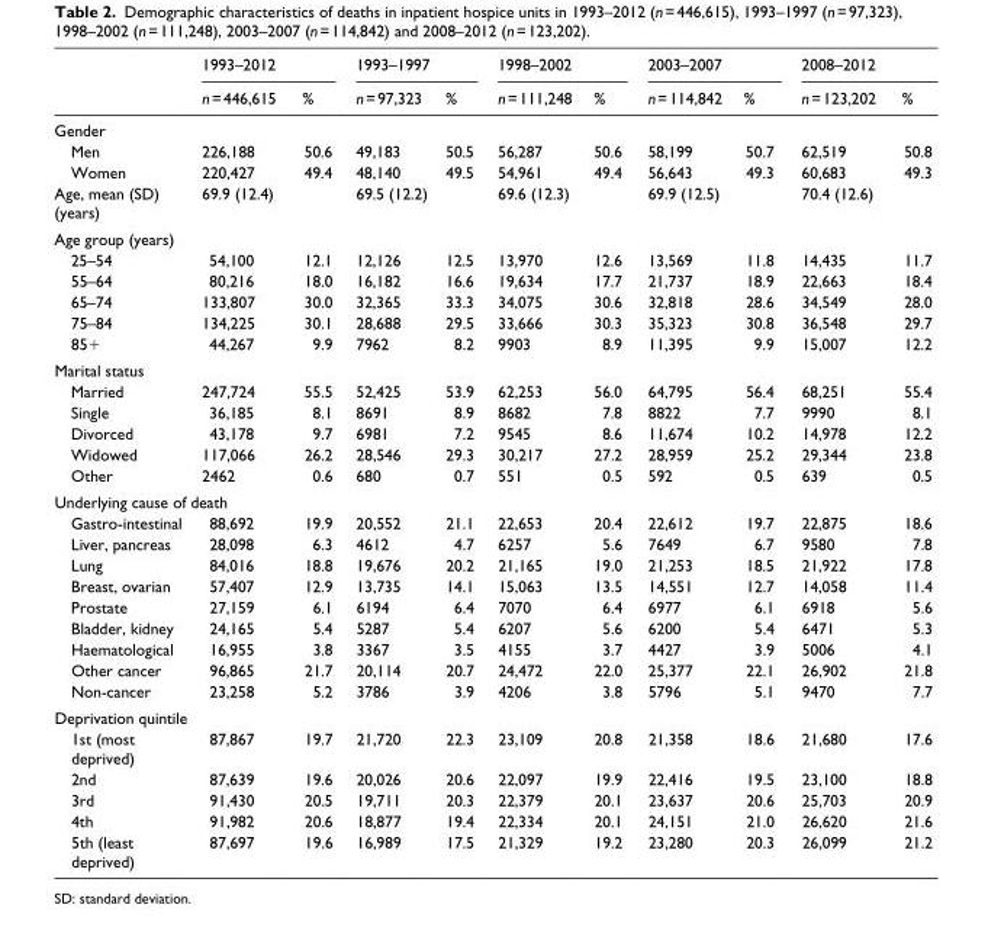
<table><thead><tr><td rowspan="2"></td><td colspan="2">1993–2012</td><td colspan="2">1993–1997</td><td colspan="2">1998–2002</td><td colspan="2">2003–2007</td><td colspan="2">2008–2012</td></tr><tr><td>n = 446,615</td><td>%</td><td>n = 97,323</td><td>%</td><td>n = 111,248</td><td>%</td><td>n = 114,842</td><td>%</td><td>n = 123,202</td><td>%</td></tr></thead><tbody><tr><td colspan="11">Gender</td></tr><tr><td>Men</td><td>226,188</td><td>50.6</td><td>49,183</td><td>50.5</td><td>56,287</td><td>50.6</td><td>58,199</td><td>50.7</td><td>62,519</td><td>50.8</td></tr><tr><td>Women</td><td>220,427</td><td>49.4</td><td>48,140</td><td>49.5</td><td>54,961</td><td>49.4</td><td>56,643</td><td>49.3</td><td>60,683</td><td>49.3</td></tr><tr><td>Age, mean (SD) (years)</td><td colspan="2">69.9 (12.4)</td><td colspan="2">69.5 (12.2)</td><td colspan="2">69.6 (12.3)</td><td colspan="2">69.9 (12.5)</td><td colspan="2">70.4 (12.6)</td></tr><tr><td colspan="11">Age group (years)</td></tr><tr><td>25–54</td><td>54,100</td><td>12.1</td><td>12,126</td><td>12.5</td><td>13,970</td><td>12.6</td><td>13,569</td><td>11.8</td><td>14,435</td><td>11.7</td></tr><tr><td>55–64</td><td>80,216</td><td>18.0</td><td>16,182</td><td>16.6</td><td>19,634</td><td>17.7</td><td>21,737</td><td>18.9</td><td>22,663</td><td>18.4</td></tr><tr><td>65–74</td><td>133,807</td><td>30.0</td><td>32,365</td><td>33.3</td><td>34,075</td><td>30.6</td><td>32,818</td><td>28.6</td><td>34,549</td><td>28.0</td></tr><tr><td>75–84</td><td>134,225</td><td>30.1</td><td>28,688</td><td>29.5</td><td>33,666</td><td>30.3</td><td>35,323</td><td>30.8</td><td>36,548</td><td>29.7</td></tr><tr><td>85+</td><td>44,267</td><td>9.9</td><td>7962</td><td>8.2</td><td>9903</td><td>8.9</td><td>11,395</td><td>9.9</td><td>15,007</td><td>12.2</td></tr><tr><td colspan="11">Marital status</td></tr><tr><td>Married</td><td>247,724</td><td>55.5</td><td>52,425</td><td>53.9</td><td>62,253</td><td>56.0</td><td>64,795</td><td>56.4</td><td>68,251</td><td>55.4</td></tr><tr><td>Single</td><td>36,185</td><td>8.1</td><td>8691</td><td>8.9</td><td>8682</td><td>7.8</td><td>8822</td><td>7.7</td><td>9990</td><td>8.1</td></tr><tr><td>Divorced</td><td>43,178</td><td>9.7</td><td>6981</td><td>7.2</td><td>9545</td><td>8.6</td><td>11,674</td><td>10.2</td><td>14,978</td><td>12.2</td></tr><tr><td>Widowed</td><td>117,066</td><td>26.2</td><td>28,546</td><td>29.3</td><td>30,217</td><td>27.2</td><td>28,959</td><td>25.2</td><td>29,344</td><td>23.8</td></tr><tr><td>Other</td><td>2462</td><td>0.6</td><td>680</td><td>0.7</td><td>551</td><td>0.5</td><td>592</td><td>0.5</td><td>639</td><td>0.5</td></tr><tr><td colspan="11">Underlying cause of death</td></tr><tr><td>Gastro-intestinal</td><td>88,692</td><td>19.9</td><td>20,552</td><td>21.1</td><td>22,653</td><td>20.4</td><td>22,612</td><td>19.7</td><td>22,875</td><td>18.6</td></tr><tr><td>Liver, pancreas</td><td>28,098</td><td>6.3</td><td>4612</td><td>4.7</td><td>6257</td><td>5.6</td><td>7649</td><td>6.7</td><td>9580</td><td>7.8</td></tr><tr><td>Lung</td><td>84,016</td><td>18.8</td><td>19,676</td><td>20.2</td><td>21,165</td><td>19.0</td><td>21,253</td><td>18.5</td><td>21,922</td><td>17.8</td></tr><tr><td>Breast, ovarian</td><td>57,407</td><td>12.9</td><td>13,735</td><td>14.1</td><td>15,063</td><td>13.5</td><td>14,551</td><td>12.7</td><td>14,058</td><td>11.4</td></tr><tr><td>Prostate</td><td>27,159</td><td>6.1</td><td>6194</td><td>6.4</td><td>7070</td><td>6.4</td><td>6977</td><td>6.1</td><td>6918</td><td>5.6</td></tr><tr><td>Bladder, kidney</td><td>24,165</td><td>5.4</td><td>5287</td><td>5.4</td><td>6207</td><td>5.6</td><td>6200</td><td>5.4</td><td>6471</td><td>5.3</td></tr><tr><td>Haematological</td><td>16,955</td><td>3.8</td><td>3367</td><td>3.5</td><td>4155</td><td>3.7</td><td>4427</td><td>3.9</td><td>5006</td><td>4.1</td></tr><tr><td>Other cancer</td><td>96,865</td><td>21.7</td><td>20,114</td><td>20.7</td><td>24,472</td><td>22.0</td><td>25,377</td><td>22.1</td><td>26,902</td><td>21.8</td></tr><tr><td>Non-cancer</td><td>23,258</td><td>5.2</td><td>3786</td><td>3.9</td><td>4206</td><td>3.8</td><td>5796</td><td>5.1</td><td>9470</td><td>7.7</td></tr><tr><td colspan="11">Deprivation quintile</td></tr><tr><td>1st (most deprived)</td><td>87,867</td><td>19.7</td><td>21,720</td><td>22.3</td><td>23,109</td><td>20.8</td><td>21,358</td><td>18.6</td><td>21,680</td><td>17.6</td></tr><tr><td>2nd</td><td>87,639</td><td>19.6</td><td>20,026</td><td>20.6</td><td>22,097</td><td>19.9</td><td>22,416</td><td>19.5</td><td>23,100</td><td>18.8</td></tr><tr><td>3rd</td><td>91,430</td><td>20.5</td><td>19,711</td><td>20.3</td><td>22,379</td><td>20.1</td><td>23,637</td><td>20.6</td><td>25,703</td><td>20.9</td></tr><tr><td>4th</td><td>91,982</td><td>20.6</td><td>18,877</td><td>19.4</td><td>22,334</td><td>20.1</td><td>24,151</td><td>21.0</td><td>26,620</td><td>21.6</td></tr><tr><td>5th (least deprived)</td><td>87,697</td><td>19.6</td><td>16,989</td><td>17.5</td><td>21,329</td><td>19.2</td><td>23,280</td><td>20.3</td><td>26,099</td><td>21.2</td></tr></tbody></table>